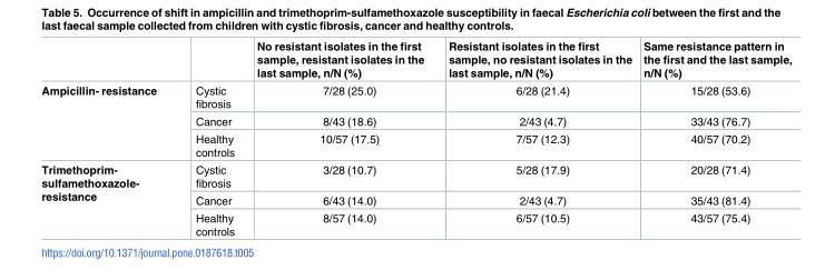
<table><thead><tr><td></td><td></td><td>No resistant isolates in the first sample, resistant isolates in the last sample, n/N (%)</td><td>Resistant isolates in the first sample, no resistant isolates in the last sample, n/N (%)</td><td>Same resistance pattern in the first and the last sample, n/N (%)</td></tr></thead><tbody><tr><td rowspan="3">Ampicillin- resistance</td><td>Cystic fibrosis</td><td>7/28 (25.0)</td><td>6/28 (21.4)</td><td>15/28 (53.6)</td></tr><tr><td>Cancer</td><td>8/43 (18.6)</td><td>2/43 (4.7)</td><td>33/43 (76.7)</td></tr><tr><td>Healthy controls</td><td>10/57 (17.5)</td><td>7/57 (12.3)</td><td>40/57 (70.2)</td></tr><tr><td rowspan="3">Trimethoprim- sulfamethoxazole- resistance</td><td>Cystic fibrosis</td><td>3/28 (10.7)</td><td>5/28 (17.9)</td><td>20/28 (71.4)</td></tr><tr><td>Cancer</td><td>6/43 (14.0)</td><td>2/43 (4.7)</td><td>35/43 (81.4)</td></tr><tr><td>Healthy controls</td><td>8/57 (14.0)</td><td>6/57 (10.5)</td><td>43/57 (75.4)</td></tr></tbody></table>